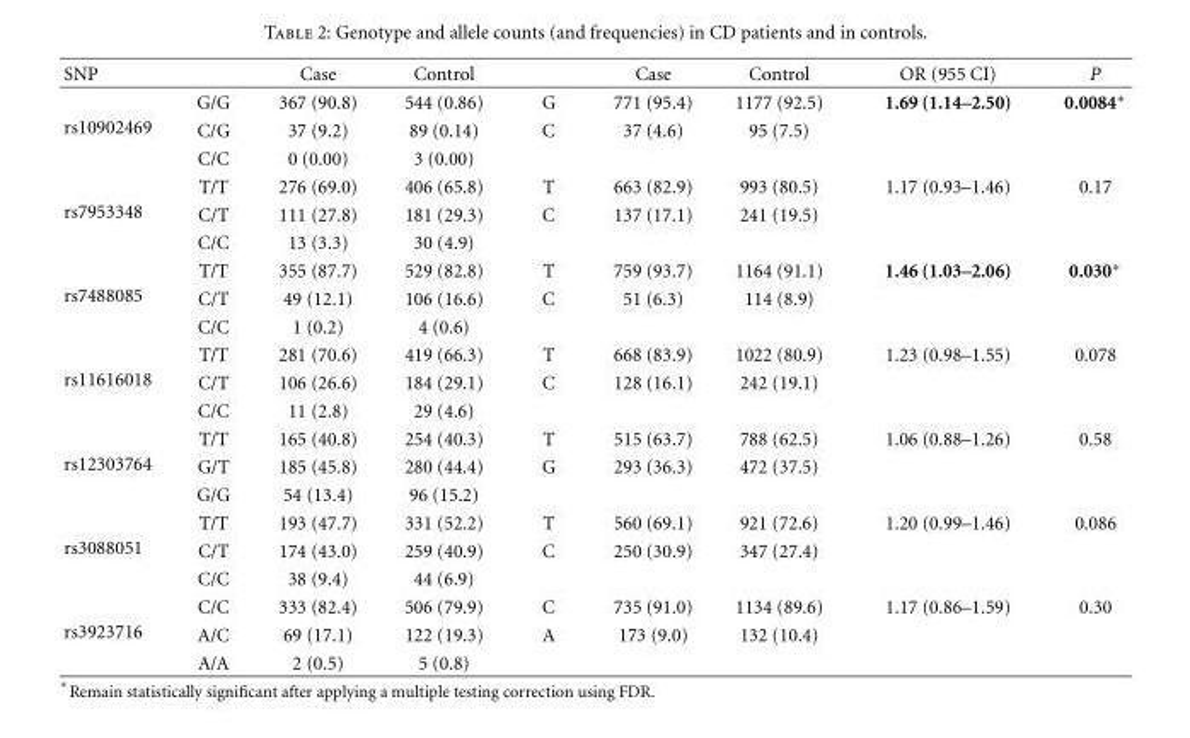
<table><thead><tr><td>SNP</td><td></td><td>Case</td><td>Control</td><td></td><td>Case</td><td>Control</td><td>OR (955 CI)</td><td>P</td></tr></thead><tbody><tr><td rowspan="3">rs10902469</td><td>G/G</td><td>367 (90.8)</td><td>544 (0.86)</td><td>G</td><td>771 (95.4)</td><td>1177 (92.5)</td><td>1.69 (1.14–2.50)</td><td>0.0084∗</td></tr><tr><td>C/G</td><td>37 (9.2)</td><td>89 (0.14)</td><td>C</td><td>37 (4.6)</td><td>95 (7.5)</td><td></td><td></td></tr><tr><td>C/C</td><td>0 (0.00)</td><td>3 (0.00)</td><td></td><td></td><td></td><td></td><td></td></tr><tr><td rowspan="3">rs7953348</td><td>T/T</td><td>276 (69.0)</td><td>406 (65.8)</td><td>T</td><td>663 (82.9)</td><td>993 (80.5)</td><td>1.17 (0.93–1.46)</td><td>0.17</td></tr><tr><td>C/T</td><td>111 (27.8)</td><td>181 (29.3)</td><td>C</td><td>137 (17.1)</td><td>241 (19.5)</td><td></td><td></td></tr><tr><td>C/C</td><td>13 (3.3)</td><td>30 (4.9)</td><td></td><td></td><td></td><td></td><td></td></tr><tr><td rowspan="3">rs7488085</td><td>T/T</td><td>355 (87.7)</td><td>529 (82.8)</td><td>T</td><td>759 (93.7)</td><td>1164 (91.1)</td><td>1.46 (1.03–2.06)</td><td>0.030∗</td></tr><tr><td>C/T</td><td>49 (12.1)</td><td>106 (16.6)</td><td>C</td><td>51 (6.3)</td><td>114 (8.9)</td><td></td><td></td></tr><tr><td>C/C</td><td>1 (0.2)</td><td>4 (0.6)</td><td></td><td></td><td></td><td></td><td></td></tr><tr><td rowspan="3">rs11616018</td><td>T/T</td><td>281 (70.6)</td><td>419 (66.3)</td><td>T</td><td>668 (83.9)</td><td>1022 (80.9)</td><td>1.23 (0.98–1.55)</td><td>0.078</td></tr><tr><td>C/T</td><td>106 (26.6)</td><td>184 (29.1)</td><td>C</td><td>128 (16.1)</td><td>242 (19.1)</td><td></td><td></td></tr><tr><td>C/C</td><td>11 (2.8)</td><td>29 (4.6)</td><td></td><td></td><td></td><td></td><td></td></tr><tr><td rowspan="3">rs12303764</td><td>T/T</td><td>165 (40.8)</td><td>254 (40.3)</td><td>T</td><td>515 (63.7)</td><td>788 (62.5)</td><td>1.06 (0.88–1.26)</td><td>0.58</td></tr><tr><td>G/T</td><td>185 (45.8)</td><td>280 (44.4)</td><td>G</td><td>293 (36.3)</td><td>472 (37.5)</td><td></td><td></td></tr><tr><td>G/G</td><td>54 (13.4)</td><td>96 (15.2)</td><td></td><td></td><td></td><td></td><td></td></tr><tr><td rowspan="3">rs3088051</td><td>T/T</td><td>193 (47.7)</td><td>331 (52.2)</td><td>T</td><td>560 (69.1)</td><td>921 (72.6)</td><td>1.20 (0.99–1.46)</td><td>0.086</td></tr><tr><td>C/T</td><td>174 (43.0)</td><td>259 (40.9)</td><td>C</td><td>250 (30.9)</td><td>347 (27.4)</td><td></td><td></td></tr><tr><td>C/C</td><td>38 (9.4)</td><td>44 (6.9)</td><td></td><td></td><td></td><td></td><td></td></tr><tr><td rowspan="3">rs3923716</td><td>C/C</td><td>333 (82.4)</td><td>506 (79.9)</td><td>C</td><td>735 (91.0)</td><td>1134 (89.6)</td><td>1.17 (0.86–1.59)</td><td>0.30</td></tr><tr><td>A/C</td><td>69 (17.1)</td><td>122 (19.3)</td><td>A</td><td>173 (9.0)</td><td>132 (10.4)</td><td></td><td></td></tr><tr><td>A/A</td><td>2 (0.5)</td><td>5 (0.8)</td><td></td><td></td><td></td><td></td><td></td></tr></tbody></table>